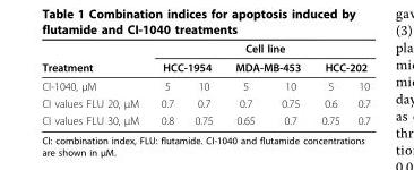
<table><thead><tr><td rowspan="3">Treatment CI-1040, μM</td><td colspan="6">Cell line</td></tr><tr><td colspan="2">HCC-1954</td><td colspan="2">MDA-MB-453</td><td colspan="2">HCC-202</td></tr><tr><td>5</td><td>10</td><td>5</td><td>10</td><td>5</td><td>10</td></tr></thead><tbody><tr><td>CI values FLU 20, μM</td><td>0.7</td><td>0.7</td><td>0.7</td><td>0.75</td><td>0.6</td><td>0.7</td></tr><tr><td>CI values FLU 30, μM</td><td>0.8</td><td>0.75</td><td>0.65</td><td>0.7</td><td>0.75</td><td>0.7</td></tr></tbody></table>